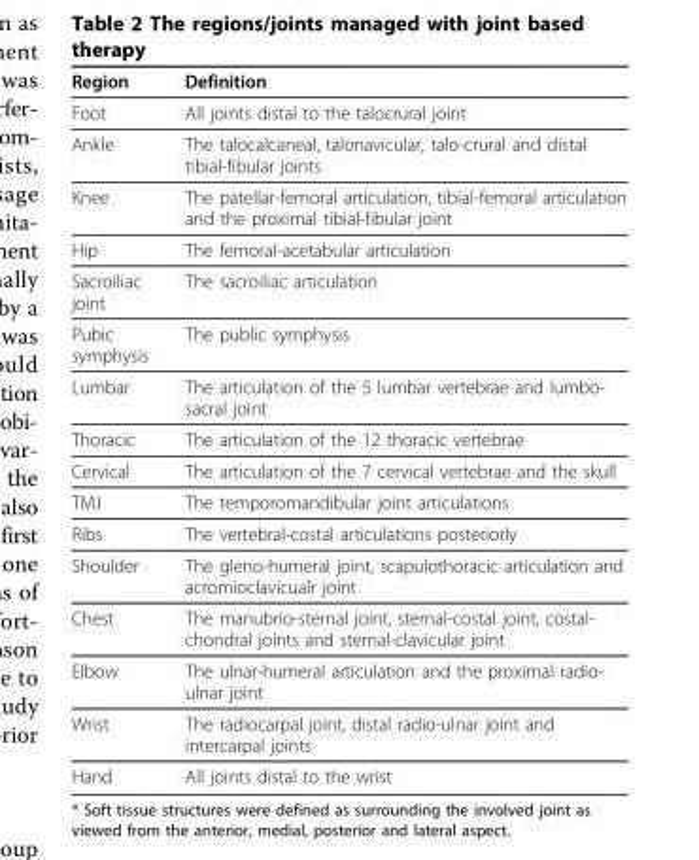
<table><thead><tr><td>Region</td><td>Definition</td></tr></thead><tbody><tr><td>Foot</td><td>All joints distal to the talocrural joint</td></tr><tr><td>Ankle</td><td>The talocalcaneal, talonavicular, talo-crural and distal tibial-fibular joints</td></tr><tr><td>Knee</td><td>The patellar-femoral articulation, tibial-femoral articulation and the proximal tibial-fibular joint</td></tr><tr><td>Hip</td><td>The femoral-acetabular articulation</td></tr><tr><td>Sacroiliac joint</td><td>The sacroiliac articulation</td></tr><tr><td>Pubic symphysis</td><td>The public symphysis</td></tr><tr><td>Lumbar</td><td>The articulation of the 5 lumbar vertebrae and lumbo- sacral joint</td></tr><tr><td>Thoracic</td><td>The articulation of the 12 thoracic vertebrae</td></tr><tr><td>Cervical</td><td>The articulation of the 7 cervical vertebrae and the skull</td></tr><tr><td>TMJ</td><td>The temporomandibular joint articulations</td></tr><tr><td>Ribs</td><td>The vertebral-costal articulations posteriorly</td></tr><tr><td>Shoulder</td><td>The gleno-humeral joint, scapulothoracic articulation and acromioclavicualr joint</td></tr><tr><td>Chest</td><td>The manubrio-sternal joint, sternal-costal joint, costal- chondral joints and sternal-clavicular joint</td></tr><tr><td>Elbow</td><td>The ulnar-humeral articulation and the proximal radio- ulnar joint</td></tr><tr><td>Wrist</td><td>The radiocarpal joint, distal radio-ulnar joint and intercarpal joints</td></tr><tr><td>Hand</td><td>All joints distal to the wrist</td></tr></tbody></table>